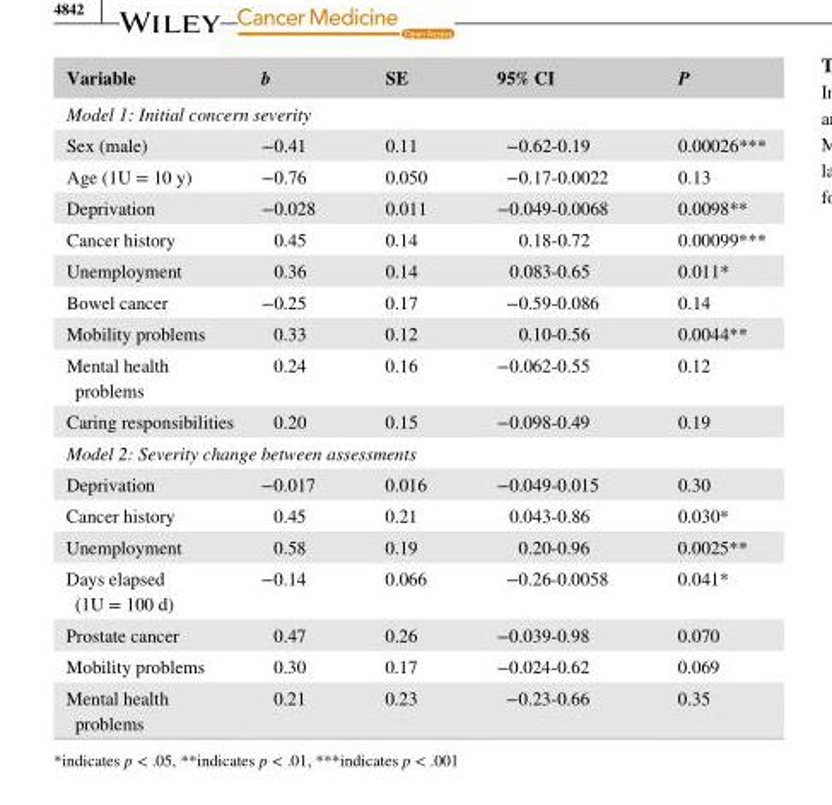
<table><thead><tr><td>Variable</td><td>b</td><td>SE</td><td>95% CI</td><td>P</td></tr></thead><tbody><tr><td colspan="5">Model 1: Initial concern severity</td></tr><tr><td>Sex (male)</td><td>−0.41</td><td>0.11</td><td>−0.62- 0.19</td><td>0.00026***</td></tr><tr><td>Age (1U = 10 y)</td><td>−0.76</td><td>0.050</td><td>−0.17- 0.0022</td><td>0.13</td></tr><tr><td>Deprivation</td><td>−0.028</td><td>0.011</td><td>−0.049- 0.0068</td><td>0.0098**</td></tr><tr><td>Cancer history</td><td>0.45</td><td>0.14</td><td>0.18- 0.72</td><td>0.00099***</td></tr><tr><td>Unemployment</td><td>0.36</td><td>0.14</td><td>0.083- 0.65</td><td>0.011*</td></tr><tr><td>Bowel cancer</td><td>−0.25</td><td>0.17</td><td>−0.59- 0.086</td><td>0.14</td></tr><tr><td>Mobility problems</td><td>0.33</td><td>0.12</td><td>0.10- 0.56</td><td>0.0044**</td></tr><tr><td>Mental health problems</td><td>0.24</td><td>0.16</td><td>−0.062- 0.55</td><td>0.12</td></tr><tr><td>Caring responsibilities</td><td>0.20</td><td>0.15</td><td>−0.098- 0.49</td><td>0.19</td></tr><tr><td colspan="5">Model 2: Severity change between assessments</td></tr><tr><td>Deprivation</td><td>−0.017</td><td>0.016</td><td>−0.049- 0.015</td><td>0.30</td></tr><tr><td>Cancer history</td><td>0.45</td><td>0.21</td><td>0.043- 0.86</td><td>0.030*</td></tr><tr><td>Unemployment</td><td>0.58</td><td>0.19</td><td>0.20- 0.96</td><td>0.0025**</td></tr><tr><td>Days elapsed (1U = 100 d)</td><td>−0.14</td><td>0.066</td><td>−0.26- 0.0058</td><td>0.041*</td></tr><tr><td>Prostate cancer</td><td>0.47</td><td>0.26</td><td>−0.039- 0.98</td><td>0.070</td></tr><tr><td>Mobility problems</td><td>0.30</td><td>0.17</td><td>−0.024- 0.62</td><td>0.069</td></tr><tr><td>Mental health problems</td><td>0.21</td><td>0.23</td><td>−0.23- 0.66</td><td>0.35</td></tr></tbody></table>